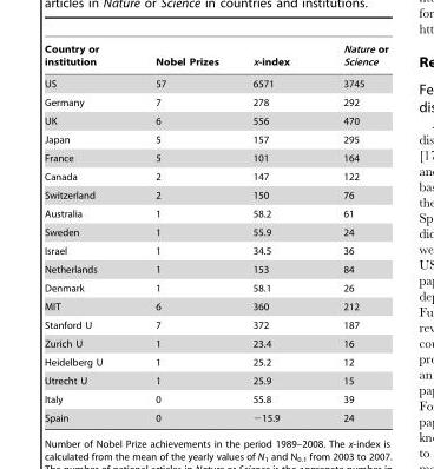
<table><thead><tr><td>Country or institution</td><td>Nobel Prizes</td><td>x-index</td><td>Nature or Science</td></tr></thead><tbody><tr><td>US</td><td>57</td><td>6571</td><td>3745</td></tr><tr><td>Germany</td><td>7</td><td>278</td><td>292</td></tr><tr><td>UK</td><td>6</td><td>556</td><td>470</td></tr><tr><td>Japan</td><td>5</td><td>157</td><td>295</td></tr><tr><td>France</td><td>5</td><td>101</td><td>164</td></tr><tr><td>Canada</td><td>2</td><td>147</td><td>122</td></tr><tr><td>Switzerland</td><td>2</td><td>150</td><td>76</td></tr><tr><td>Australia</td><td>1</td><td>58.2</td><td>61</td></tr><tr><td>Sweden</td><td>1</td><td>55.9</td><td>24</td></tr><tr><td>Israel</td><td>1</td><td>34.5</td><td>36</td></tr><tr><td>Netherlands</td><td>1</td><td>153</td><td>84</td></tr><tr><td>Denmark</td><td>1</td><td>58.1</td><td>26</td></tr><tr><td>MIT</td><td>6</td><td>360</td><td>212</td></tr><tr><td>Stanford U</td><td>7</td><td>372</td><td>187</td></tr><tr><td>Zurich U</td><td>1</td><td>23.4</td><td>16</td></tr><tr><td>Heidelberg U</td><td>1</td><td>25.2</td><td>12</td></tr><tr><td>Utrecht U</td><td>1</td><td>25.9</td><td>15</td></tr><tr><td>Italy</td><td>0</td><td>55.8</td><td>39</td></tr><tr><td>Spain</td><td>0</td><td>−15.9</td><td>24</td></tr></tbody></table>